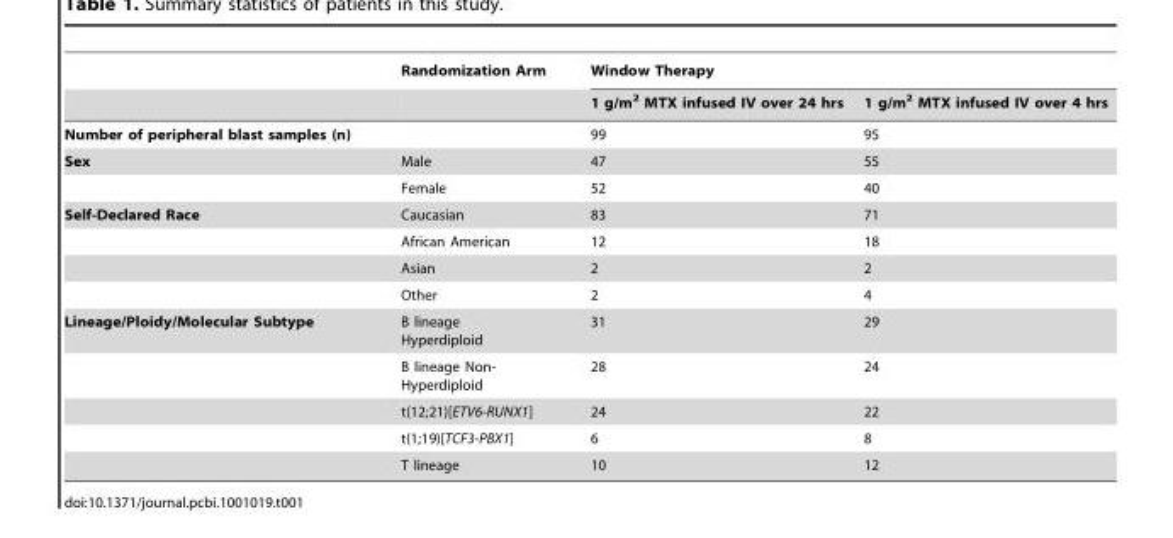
<table><thead><tr><td rowspan="2"></td><td rowspan="2">Randomization Arm</td><td colspan="2">Window Therapy</td></tr><tr><td>1 g/m<sup>2</sup> MTX infused IV over 24 hrs</td><td>1 g/m<sup>2</sup> MTX infused IV over 4 hrs</td></tr></thead><tbody><tr><td>Number of peripheral blast samples (n)</td><td></td><td>99</td><td>95</td></tr><tr><td rowspan="2">Sex</td><td>Male</td><td>47</td><td>55</td></tr><tr><td>Female</td><td>52</td><td>40</td></tr><tr><td rowspan="4">Self-Declared Race</td><td>Caucasian</td><td>83</td><td>71</td></tr><tr><td>African American</td><td>12</td><td>18</td></tr><tr><td>Asian</td><td>2</td><td>2</td></tr><tr><td>Other</td><td>2</td><td>4</td></tr><tr><td rowspan="5">Lineage/Ploidy/Molecular Subtype</td><td>B lineage Hyperdiploid</td><td>31</td><td>29</td></tr><tr><td>B lineage Non- Hyperdiploid</td><td>28</td><td>24</td></tr><tr><td>t(12;21)[ETV6-RUNX1]</td><td>24</td><td>22</td></tr><tr><td>t(1;19)[TCF3-PBX1]</td><td>6</td><td>8</td></tr><tr><td>T lineage</td><td>10</td><td>12</td></tr></tbody></table>